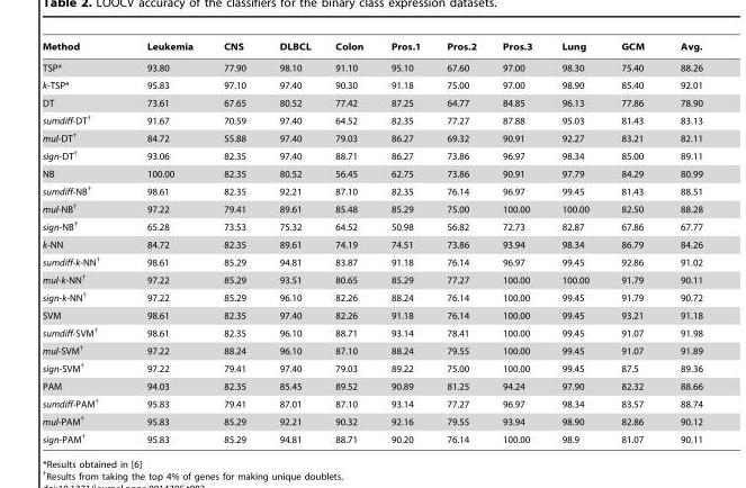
<table><thead><tr><td>Method</td><td>Leukemia</td><td>CNS</td><td>DLBCL</td><td>Colon</td><td>Pros.1</td><td>Pros.2</td><td>Pros.3</td><td>Lung</td><td>GCM</td><td>Avg.</td></tr></thead><tbody><tr><td>TSP*</td><td>93.80</td><td>77.90</td><td>98.10</td><td>91.10</td><td>95.10</td><td>67.60</td><td>97.00</td><td>98.30</td><td>75.40</td><td>88.26</td></tr><tr><td>k-TSP*</td><td>95.83</td><td>97.10</td><td>97.40</td><td>90.30</td><td>91.18</td><td>75.00</td><td>97.00</td><td>98.90</td><td>85.40</td><td>92.01</td></tr><tr><td>DT</td><td>73.61</td><td>67.65</td><td>80.52</td><td>77.42</td><td>87.25</td><td>64.77</td><td>84.85</td><td>96.13</td><td>77.86</td><td>78.90</td></tr><tr><td>sumdiff-DT†</td><td>91.67</td><td>70.59</td><td>97.40</td><td>64.52</td><td>82.35</td><td>77.27</td><td>87.88</td><td>95.03</td><td>81.43</td><td>83.13</td></tr><tr><td>mul-DT†</td><td>84.72</td><td>55.88</td><td>97.40</td><td>79.03</td><td>86.27</td><td>69.32</td><td>90.91</td><td>92.27</td><td>83.21</td><td>82.11</td></tr><tr><td>sign-DT†</td><td>93.06</td><td>82.35</td><td>97.40</td><td>88.71</td><td>86.27</td><td>73.86</td><td>96.97</td><td>98.34</td><td>85.00</td><td>89.11</td></tr><tr><td>NB</td><td>100.00</td><td>82.35</td><td>80.52</td><td>56.45</td><td>62.75</td><td>73.86</td><td>90.91</td><td>97.79</td><td>84.29</td><td>80.99</td></tr><tr><td>sumdiff-NB†</td><td>98.61</td><td>82.35</td><td>92.21</td><td>87.10</td><td>82.35</td><td>76.14</td><td>96.97</td><td>99.45</td><td>81.43</td><td>88.51</td></tr><tr><td>mul-NB†</td><td>97.22</td><td>79.41</td><td>89.61</td><td>85.48</td><td>85.29</td><td>75.00</td><td>100.00</td><td>100.00</td><td>82.50</td><td>88.28</td></tr><tr><td>sign-NB†</td><td>65.28</td><td>73.53</td><td>75.32</td><td>64.52</td><td>50.98</td><td>56.82</td><td>72.73</td><td>82.87</td><td>67.86</td><td>67.77</td></tr><tr><td>k-NN</td><td>84.72</td><td>82.35</td><td>89.61</td><td>74.19</td><td>74.51</td><td>73.86</td><td>93.94</td><td>98.34</td><td>86.79</td><td>84.26</td></tr><tr><td>sumdiff-k-NN†</td><td>98.61</td><td>85.29</td><td>94.81</td><td>83.87</td><td>91.18</td><td>76.14</td><td>96.97</td><td>99.45</td><td>92.86</td><td>91.02</td></tr><tr><td>mul-k-NN†</td><td>97.22</td><td>85.29</td><td>93.51</td><td>80.65</td><td>85.29</td><td>77.27</td><td>100.00</td><td>100.00</td><td>91.79</td><td>90.11</td></tr><tr><td>sign-k-NN†</td><td>97.22</td><td>85.29</td><td>96.10</td><td>82.26</td><td>88.24</td><td>76.14</td><td>100.00</td><td>99.45</td><td>91.79</td><td>90.72</td></tr><tr><td>SVM</td><td>98.61</td><td>82.35</td><td>97.40</td><td>82.26</td><td>91.18</td><td>76.14</td><td>100.00</td><td>99.45</td><td>93.21</td><td>91.18</td></tr><tr><td>sumdiff-SVM†</td><td>98.61</td><td>82.35</td><td>96.10</td><td>88.71</td><td>93.14</td><td>78.41</td><td>100.00</td><td>99.45</td><td>91.07</td><td>91.98</td></tr><tr><td>mul-SVM†</td><td>97.22</td><td>88.24</td><td>96.10</td><td>87.10</td><td>88.24</td><td>79.55</td><td>100.00</td><td>99.45</td><td>91.07</td><td>91.89</td></tr><tr><td>sign-SVM†</td><td>97.22</td><td>79.41</td><td>97.40</td><td>79.03</td><td>89.22</td><td>75.00</td><td>100.00</td><td>99.45</td><td>87.5</td><td>89.36</td></tr><tr><td>PAM</td><td>94.03</td><td>82.35</td><td>85.45</td><td>89.52</td><td>90.89</td><td>81.25</td><td>94.24</td><td>97.90</td><td>82.32</td><td>88.66</td></tr><tr><td>sumdiff-PAM†</td><td>95.83</td><td>79.41</td><td>87.01</td><td>87.10</td><td>93.14</td><td>77.27</td><td>96.97</td><td>98.34</td><td>83.57</td><td>88.74</td></tr><tr><td>mul-PAM†</td><td>95.83</td><td>85.29</td><td>92.21</td><td>90.32</td><td>92.16</td><td>79.55</td><td>93.94</td><td>98.90</td><td>82.86</td><td>90.12</td></tr><tr><td>sign-PAM†</td><td>95.83</td><td>85.29</td><td>94.81</td><td>88.71</td><td>90.20</td><td>76.14</td><td>100.00</td><td>98.9</td><td>81.07</td><td>90.11</td></tr></tbody></table>